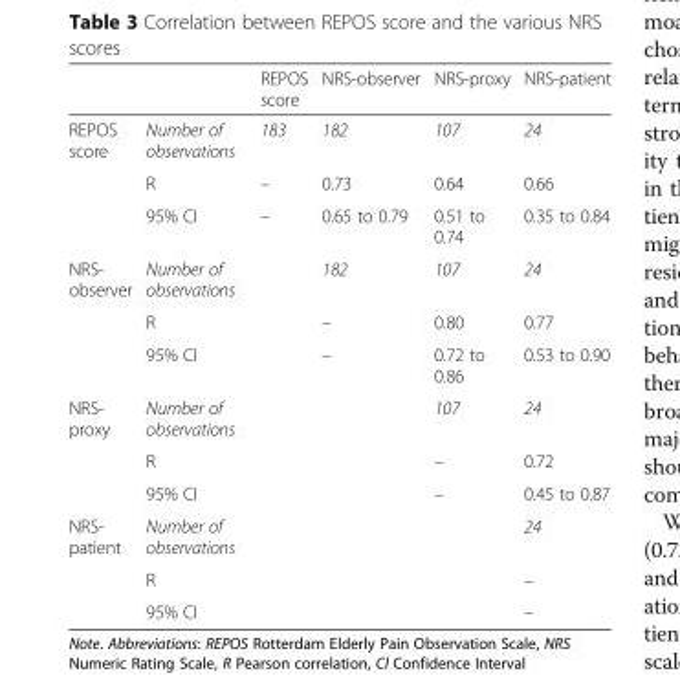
<table><thead><tr><td></td><td></td><td>REPOS score</td><td>NRS-observer</td><td>NRS-proxy</td><td>NRS-patient</td></tr></thead><tbody><tr><td rowspan="3">REPOS score</td><td>Number of observations</td><td>183</td><td>182</td><td>107</td><td>24</td></tr><tr><td>R</td><td>–</td><td>0.73</td><td>0.64</td><td>0.66</td></tr><tr><td>95% CI</td><td>–</td><td>0.65 to 0.79</td><td>0.51 to 0.74</td><td>0.35 to 0.84</td></tr><tr><td rowspan="3">NRS- observer</td><td>Number of observations</td><td></td><td>182</td><td>107</td><td>24</td></tr><tr><td>R</td><td></td><td>–</td><td>0.80</td><td>0.77</td></tr><tr><td>95% CI</td><td></td><td>–</td><td>0.72 to 0.86</td><td>0.53 to 0.90</td></tr><tr><td rowspan="3">NRS- proxy</td><td>Number of observations</td><td></td><td></td><td>107</td><td>24</td></tr><tr><td>R</td><td></td><td></td><td>–</td><td>0.72</td></tr><tr><td>95% CI</td><td></td><td></td><td>–</td><td>0.45 to 0.87</td></tr><tr><td rowspan="3">NRS- patient</td><td>Number of observations</td><td></td><td></td><td></td><td>24</td></tr><tr><td>R</td><td></td><td></td><td></td><td>–</td></tr><tr><td>95% CI</td><td></td><td></td><td></td><td>–</td></tr></tbody></table>